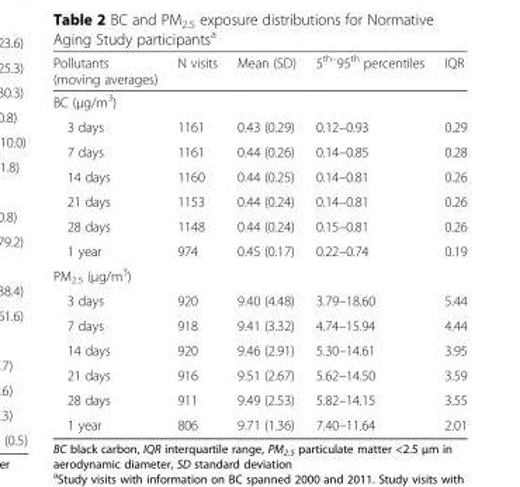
<table><thead><tr><td>Pollutants (moving averages)</td><td>N visits</td><td>Mean (SD)</td><td>5<sup>th–</sup>95<sup>th</sup> percentiles</td><td>IQR</td></tr></thead><tbody><tr><td colspan="5">BC (μg/m<sup>3</sup>)</td></tr><tr><td>3 days</td><td>1161</td><td>0.43 (0.29)</td><td>0.12–0.93</td><td>0.29</td></tr><tr><td>7 days</td><td>1161</td><td>0.44 (0.26)</td><td>0.14–0.85</td><td>0.28</td></tr><tr><td>14 days</td><td>1160</td><td>0.44 (0.25)</td><td>0.14–0.81</td><td>0.26</td></tr><tr><td>21 days</td><td>1153</td><td>0.44 (0.24)</td><td>0.14–0.81</td><td>0.26</td></tr><tr><td>28 days</td><td>1148</td><td>0.44 (0.24)</td><td>0.15–0.81</td><td>0.26</td></tr><tr><td>1 year</td><td>974</td><td>0.45 (0.17)</td><td>0.22–0.74</td><td>0.19</td></tr><tr><td colspan="5">PM<sub>2.5</sub> (μg/m<sup>3</sup>)</td></tr><tr><td>3 days</td><td>920</td><td>9.40 (4.48)</td><td>3.79–18.60</td><td>5.44</td></tr><tr><td>7 days</td><td>918</td><td>9.41 (3.32)</td><td>4.74–15.94</td><td>4.44</td></tr><tr><td>14 days</td><td>920</td><td>9.46 (2.91)</td><td>5.30–14.61</td><td>3.95</td></tr><tr><td>21 days</td><td>916</td><td>9.51 (2.67)</td><td>5.62–14.50</td><td>3.59</td></tr><tr><td>28 days</td><td>911</td><td>9.49 (2.53)</td><td>5.82–14.15</td><td>3.55</td></tr><tr><td>1 year</td><td>806</td><td>9.71 (1.36)</td><td>7.40–11.64</td><td>2.01</td></tr></tbody></table>